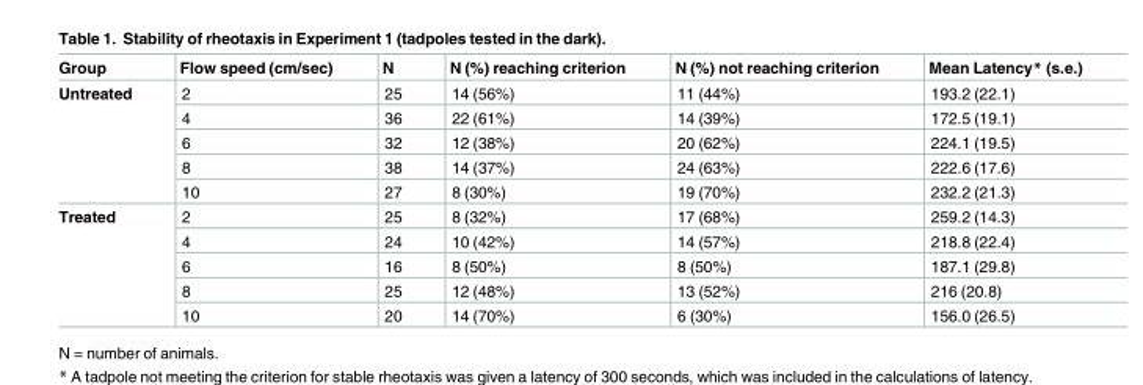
<table><thead><tr><td>Group</td><td>Flow speed (cm/sec)</td><td>N</td><td>N (%) reaching criterion</td><td>N (%) not reaching criterion</td><td>Mean Latency* (s.e.)</td></tr></thead><tbody><tr><td rowspan="5">Untreated</td><td>2</td><td>25</td><td>14 (56%)</td><td>11 (44%)</td><td>193.2 (22.1)</td></tr><tr><td>4</td><td>36</td><td>22 (61%)</td><td>14 (39%)</td><td>172.5 (19.1)</td></tr><tr><td>6</td><td>32</td><td>12 (38%)</td><td>20 (62%)</td><td>224.1 (19.5)</td></tr><tr><td>8</td><td>38</td><td>14 (37%)</td><td>24 (63%)</td><td>222.6 (17.6)</td></tr><tr><td>10</td><td>27</td><td>8 (30%)</td><td>19 (70%)</td><td>232.2 (21.3)</td></tr><tr><td rowspan="5">Treated</td><td>2</td><td>25</td><td>8 (32%)</td><td>17 (68%)</td><td>259.2 (14.3)</td></tr><tr><td>4</td><td>24</td><td>10 (42%)</td><td>14 (57%)</td><td>218.8 (22.4)</td></tr><tr><td>6</td><td>16</td><td>8 (50%)</td><td>8 (50%)</td><td>187.1 (29.8)</td></tr><tr><td>8</td><td>25</td><td>12 (48%)</td><td>13 (52%)</td><td>216 (20.8)</td></tr><tr><td>10</td><td>20</td><td>14 (70%)</td><td>6 (30%)</td><td>156.0 (26.5)</td></tr></tbody></table>